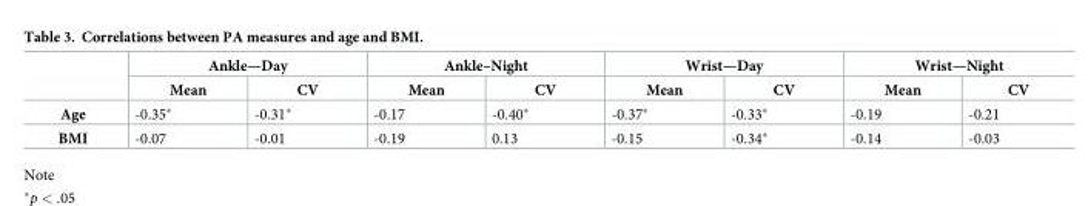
<table><thead><tr><td rowspan="2"></td><td colspan="2">Ankle—Day</td><td colspan="2">Ankle–Night</td><td colspan="2">Wrist—Day</td><td colspan="2">Wrist—Night</td></tr><tr><td>Mean</td><td>CV</td><td>Mean</td><td>CV</td><td>Mean</td><td>CV</td><td>Mean</td><td>CV</td></tr></thead><tbody><tr><td>Age</td><td>-0.35*</td><td>-0.31*</td><td>-0.17</td><td>-0.40*</td><td>-0.37*</td><td>-0.33*</td><td>-0.19</td><td>-0.21</td></tr><tr><td>BMI</td><td>-0.07</td><td>-0.01</td><td>-0.19</td><td>0.13</td><td>-0.15</td><td>-0.34*</td><td>-0.14</td><td>-0.03</td></tr></tbody></table>